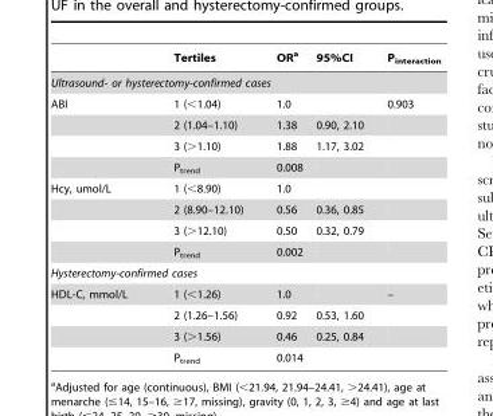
<table><thead><tr><td></td><td>Tertiles</td><td>OR<sup>a</sup></td><td>95%CI</td><td>P<sub>interaction</sub></td></tr></thead><tbody><tr><td colspan="5">Ultrasound- or hysterectomy-confirmed cases</td></tr><tr><td rowspan="4">ABI</td><td>1 (&lt;1.04)</td><td>1.0</td><td></td><td>0.903</td></tr><tr><td>2 (1.04–1.10)</td><td>1.38</td><td>0.90, 2.10</td><td></td></tr><tr><td>3 (&gt;1.10)</td><td>1.88</td><td>1.17, 3.02</td><td></td></tr><tr><td>P<sub>trend</sub></td><td>0.008</td><td></td><td></td></tr><tr><td rowspan="4">Hcy, umol/L</td><td>1 (&lt;8.90)</td><td>1.0</td><td></td><td></td></tr><tr><td>2 (8.90–12.10)</td><td>0.56</td><td>0.36, 0.85</td><td></td></tr><tr><td>3 (&gt;12.10)</td><td>0.50</td><td>0.32, 0.79</td><td></td></tr><tr><td>P<sub>trend</sub></td><td>0.002</td><td></td><td></td></tr><tr><td colspan="5">Hysterectomy-confirmed cases</td></tr><tr><td rowspan="4">HDL-C, mmol/L</td><td>1 (&lt;1.26)</td><td>1.0</td><td></td><td>–</td></tr><tr><td>2 (1.26–1.56)</td><td>0.92</td><td>0.53, 1.60</td><td></td></tr><tr><td>3 (&gt;1.56)</td><td>0.46</td><td>0.25, 0.84</td><td></td></tr><tr><td>P<sub>trend</sub></td><td>0.014</td><td></td><td></td></tr></tbody></table>